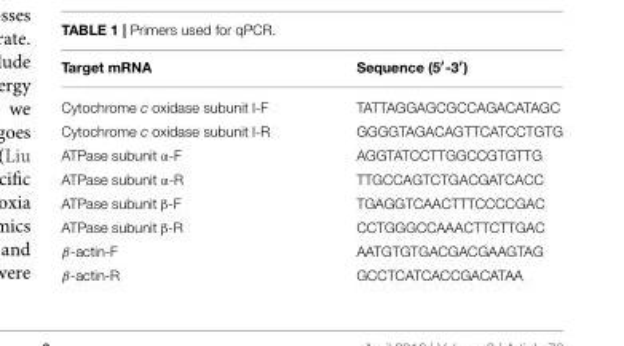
<table><thead><tr><td>Target mRNA</td><td>Sequence (5′-3′)</td></tr></thead><tbody><tr><td>Cytochrome c oxidase subunit I-F</td><td>TATTAGGAGCGCCAGACATAGC</td></tr><tr><td>Cytochrome c oxidase subunit I-R</td><td>GGGGTAGACAGTTCATCCTGTG</td></tr><tr><td>ATPase subunit α-F</td><td>AGGTATCCTTGGCCGTGTTG</td></tr><tr><td>ATPase subunit α-R</td><td>TTGCCAGTCTGACGATCACC</td></tr><tr><td>ATPase subunit β-F</td><td>TGAGGTCAACTTTCCCCGAC</td></tr><tr><td>ATPase subunit β-R</td><td>CCTGGGCCAAACTTCTTGAC</td></tr><tr><td>β-actin-F</td><td>AATGTGTGACGACGAAGTAG</td></tr><tr><td>β-actin-R</td><td>GCCTCATCACCGACATAA</td></tr></tbody></table>